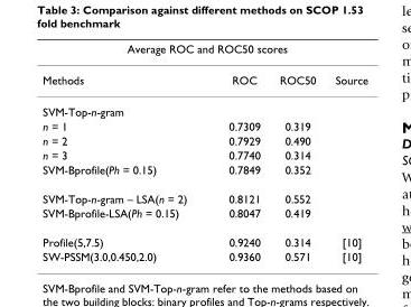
<table><thead><tr><td colspan="4">Average ROC and ROC50 scores</td></tr><tr><td>Methods</td><td>ROC</td><td>ROC50</td><td>Source</td></tr></thead><tbody><tr><td colspan="4">SVM-Top-n-gram</td></tr><tr><td>n = 1</td><td>0.7309</td><td>0.319</td><td></td></tr><tr><td>n = 2</td><td>0.7929</td><td>0.490</td><td></td></tr><tr><td>n = 3</td><td>0.7740</td><td>0.314</td><td></td></tr><tr><td>SVM-Bprofile(Ph = 0.15)</td><td>0.7849</td><td>0.352</td><td></td></tr><tr><td>SVM-Top-n-gram – LSA(n = 2)</td><td>0.8121</td><td>0.552</td><td></td></tr><tr><td>SVM-Bprofile-LSA(Ph = 0.15)</td><td>0.8047</td><td>0.419</td><td></td></tr><tr><td>Profile(5,7.5)</td><td>0.9240</td><td>0.314</td><td>[10]</td></tr><tr><td>SW-PSSM(3.0,0.450,2.0)</td><td>0.9360</td><td>0.571</td><td>[10]</td></tr></tbody></table>